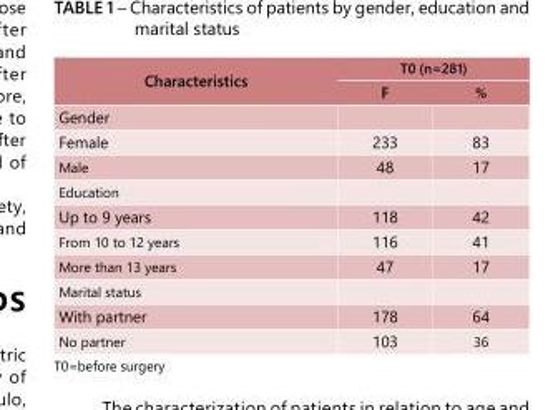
<table><tbody><tr><td rowspan="2">Characteristics</td><td colspan="2">T0 (n=281)</td></tr><tr><td>F</td><td>%</td></tr><tr><td colspan="3">Gender</td></tr><tr><td>Female</td><td>233</td><td>83</td></tr><tr><td>Male</td><td>48</td><td>17</td></tr><tr><td colspan="3">Education</td></tr><tr><td>Up to 9 years</td><td>118</td><td>42</td></tr><tr><td>From 10 to 12 years</td><td>116</td><td>41</td></tr><tr><td>More than 13 years</td><td>47</td><td>17</td></tr><tr><td colspan="3">Marital status</td></tr><tr><td>With partner</td><td>178</td><td>64</td></tr><tr><td>No partner</td><td>103</td><td>36</td></tr></tbody></table>